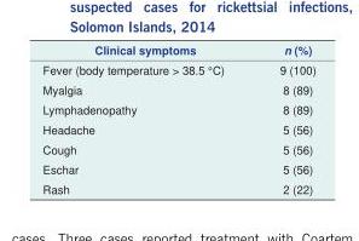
<table><thead><tr><td>Clinical symptoms</td><td>n (%)</td></tr></thead><tbody><tr><td>Fever (body temperature &gt; 38.5 °C)</td><td>9 (100)</td></tr><tr><td>Myalgia</td><td>8 (89)</td></tr><tr><td>Lymphadenopathy</td><td>8 (89)</td></tr><tr><td>Headache</td><td>5 (56)</td></tr><tr><td>Cough</td><td>5 (56)</td></tr><tr><td>Eschar</td><td>5 (56)</td></tr><tr><td>Rash</td><td>2 (22)</td></tr></tbody></table>